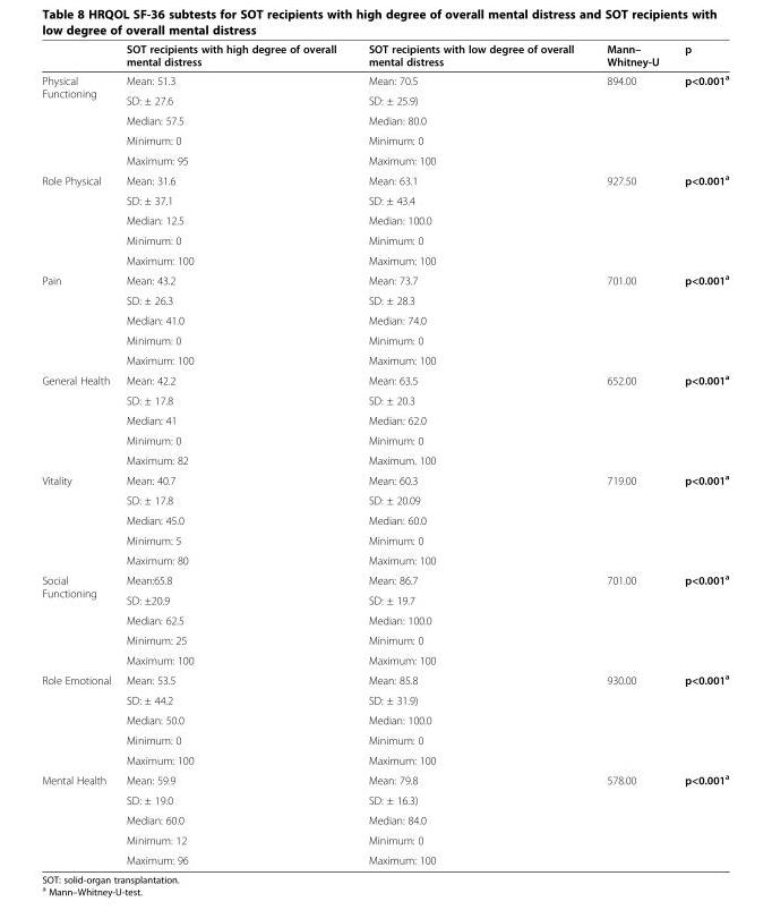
<table><thead><tr><td></td><td>SOT recipients with high degree of overall mental distress</td><td>SOT recipients with low degree of overall mental distress</td><td>Mann– Whitney-U</td><td>p</td></tr></thead><tbody><tr><td rowspan="5">Physical Functioning</td><td>Mean: 51.3</td><td>Mean: 70.5</td><td rowspan="5">894.00</td><td rowspan="5">p&lt;0.001<sup>a</sup></td></tr><tr><td>SD: ± 27.6</td><td>SD: ± 25.9)</td></tr><tr><td>Median: 57.5</td><td>Median: 80.0</td></tr><tr><td>Minimum: 0</td><td>Minimum: 0</td></tr><tr><td>Maximum: 95</td><td>Maximum: 100</td></tr><tr><td rowspan="5">Role Physical</td><td>Mean: 31.6</td><td>Mean: 63.1</td><td rowspan="5">927.50</td><td rowspan="5">p&lt;0.001<sup>a</sup></td></tr><tr><td>SD: ± 37.1</td><td>SD: ± 43.4</td></tr><tr><td>Median: 12.5</td><td>Median: 100.0</td></tr><tr><td>Minimum: 0</td><td>Minimum: 0</td></tr><tr><td>Maximum: 100</td><td>Maximum: 100</td></tr><tr><td rowspan="5">Pain</td><td>Mean: 43.2</td><td>Mean: 73.7</td><td rowspan="5">701.00</td><td rowspan="5">p&lt;0.001<sup>a</sup></td></tr><tr><td>SD: ± 26.3</td><td>SD: ± 28.3</td></tr><tr><td>Median: 41.0</td><td>Median: 74.0</td></tr><tr><td>Minimum: 0</td><td>Minimum: 0</td></tr><tr><td>Maximum: 100</td><td>Maximum: 100</td></tr><tr><td rowspan="5">General Health</td><td>Mean: 42.2</td><td>Mean: 63.5</td><td rowspan="5">652.00</td><td rowspan="5">p&lt;0.001<sup>a</sup></td></tr><tr><td>SD: ± 17.8</td><td>SD: ± 20.3</td></tr><tr><td>Median: 41</td><td>Median: 62.0</td></tr><tr><td>Minimum: 0</td><td>Minimum: 0</td></tr><tr><td>Maximum: 82</td><td>Maximum. 100</td></tr><tr><td rowspan="5">Vitality</td><td>Mean: 40.7</td><td>Mean: 60.3</td><td rowspan="5">719.00</td><td rowspan="5">p&lt;0.001<sup>a</sup></td></tr><tr><td>SD: ± 17.8</td><td>SD: ± 20.09</td></tr><tr><td>Median: 45.0</td><td>Median: 60.0</td></tr><tr><td>Minimum: 5</td><td>Minimum: 0</td></tr><tr><td>Maximum: 80</td><td>Maximum: 100</td></tr><tr><td rowspan="5">Social Functioning</td><td>Mean:65.8</td><td>Mean: 86.7</td><td rowspan="5">701.00</td><td rowspan="5">p&lt;0.001<sup>a</sup></td></tr><tr><td>SD: ±20.9</td><td>SD: ± 19.7</td></tr><tr><td>Median: 62.5</td><td>Median: 100.0</td></tr><tr><td>Minimum: 25</td><td>Minimum: 0</td></tr><tr><td>Maximum: 100</td><td>Maximum: 100</td></tr><tr><td rowspan="5">Role Emotional</td><td>Mean: 53.5</td><td>Mean: 85.8</td><td rowspan="5">930.00</td><td rowspan="5">p&lt;0.001<sup>a</sup></td></tr><tr><td>SD: ± 44.2</td><td>SD: ± 31.9)</td></tr><tr><td>Median: 50.0</td><td>Median: 100.0</td></tr><tr><td>Minimum: 0</td><td>Minimum: 0</td></tr><tr><td>Maximum: 100</td><td>Maximum: 100</td></tr><tr><td rowspan="5">Mental Health</td><td>Mean: 59.9</td><td>Mean: 79.8</td><td rowspan="5">578.00</td><td rowspan="5">p&lt;0.001<sup>a</sup></td></tr><tr><td>SD: ± 19.0</td><td>SD: ± 16.3)</td></tr><tr><td>Median: 60.0</td><td>Median: 84.0</td></tr><tr><td>Minimum: 12</td><td>Minimum: 0</td></tr><tr><td>Maximum: 96</td><td>Maximum: 100</td></tr></tbody></table>